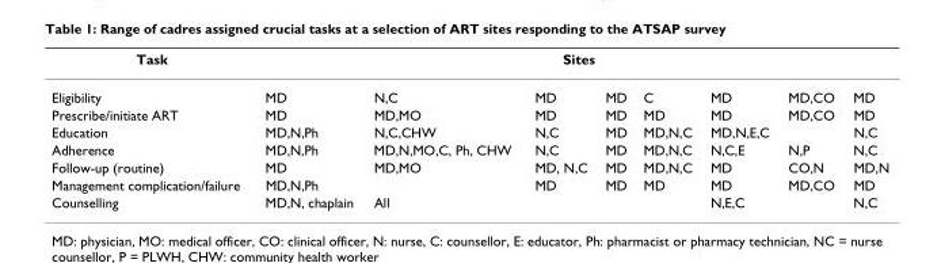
<table><thead><tr><td rowspan="2">Task Eligibility</td><td colspan="8">Sites</td></tr><tr><td>MD</td><td>N,C</td><td>MD</td><td>MD</td><td>C</td><td>MD</td><td>MD,CO</td><td>MD</td></tr></thead><tbody><tr><td>Prescribe/initiate ART</td><td>MD</td><td>MD,MO</td><td>MD</td><td>MD</td><td>MD</td><td>MD</td><td>MD,CO</td><td>MD</td></tr><tr><td>Education</td><td>MD,N,Ph</td><td>N,C,CHW</td><td>N,C</td><td>MD</td><td>MD,N,C</td><td>MD,N,E,C</td><td></td><td>N,C</td></tr><tr><td>Adherence</td><td>MD,N,Ph</td><td>MD,N,MO,C, Ph, CHW</td><td>N,C</td><td>MD</td><td>MD,N,C</td><td>N,C,E</td><td>N,P</td><td>N,C</td></tr><tr><td>Follow-up (routine)</td><td>MD</td><td>MD,MO</td><td>MD, N,C</td><td>MD</td><td>MD,N,C</td><td>MD</td><td>CO,N</td><td>MD,N</td></tr><tr><td>Management complication/failure</td><td>MD,N,Ph</td><td></td><td>MD</td><td>MD</td><td>MD</td><td>MD</td><td>MD,CO</td><td>MD</td></tr><tr><td>Counselling</td><td>MD,N, chaplain</td><td>All</td><td></td><td></td><td></td><td>N,E,C</td><td></td><td>N,C</td></tr></tbody></table>